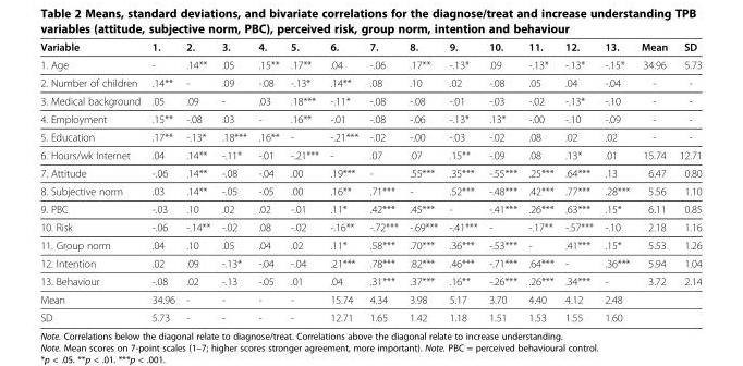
<table><thead><tr><td>Variable</td><td>1.</td><td>2.</td><td>3.</td><td>4.</td><td>5.</td><td>6.</td><td>7.</td><td>8.</td><td>9.</td><td>10.</td><td>11.</td><td>12.</td><td>13.</td><td>Mean</td><td>SD</td></tr></thead><tbody><tr><td>1. Age</td><td>-</td><td>.14**</td><td>.05</td><td>.15**</td><td>.17**</td><td>.04</td><td>-.06</td><td>.17**</td><td>-.13*</td><td>.09</td><td>-.13*</td><td>-.13*</td><td>-.15*</td><td>34.96</td><td>5.73</td></tr><tr><td>2. Number of children</td><td>.14**</td><td>-</td><td>.09</td><td>-.08</td><td>-.13*</td><td>.14**</td><td>.08</td><td>.10</td><td>.02</td><td>-.08</td><td>.05</td><td>.04</td><td>-.04</td><td>-</td><td>-</td></tr><tr><td>3. Medical background</td><td>.05</td><td>.09</td><td>-</td><td>.03</td><td>.18***</td><td>-.11*</td><td>-.08</td><td>-.08</td><td>-.01</td><td>-.03</td><td>-.02</td><td>-.13*</td><td>-.10</td><td>-</td><td>-</td></tr><tr><td>4. Employment</td><td>.15**</td><td>-.08</td><td>.03</td><td>-</td><td>.16**</td><td>-.01</td><td>-.08</td><td>-.06</td><td>-.13*</td><td>.13*</td><td>-.00</td><td>-.10</td><td>-.09</td><td>-</td><td>-</td></tr><tr><td>5. Education</td><td>.17**</td><td>-.13*</td><td>.18***</td><td>.16**</td><td>-</td><td>-.21***</td><td>-.02</td><td>-.00</td><td>-.03</td><td>-.02</td><td>.08</td><td>.02</td><td>.02</td><td>-</td><td>-</td></tr><tr><td>6. Hours/wk Internet</td><td>.04</td><td>.14**</td><td>-.11*</td><td>-.01</td><td>-.21***</td><td>-</td><td>.07</td><td>.07</td><td>.15**</td><td>-.09</td><td>.08</td><td>.13*</td><td>.01</td><td>15.74</td><td>12.71</td></tr><tr><td>7. Attitude</td><td>-.06</td><td>.14**</td><td>-.08</td><td>-.04</td><td>.00</td><td>.19***</td><td>-</td><td>.55***</td><td>.35***</td><td>-.55***</td><td>.25***</td><td>.64***</td><td>.13</td><td>6.47</td><td>0.80</td></tr><tr><td>8. Subjective norm</td><td>.03</td><td>.14**</td><td>-.05</td><td>-.05</td><td>.00</td><td>.16**</td><td>.71***</td><td>-</td><td>.52***</td><td>-.48***</td><td>.42***</td><td>.77***</td><td>.28***</td><td>5.56</td><td>1.10</td></tr><tr><td>9. PBC</td><td>-.03</td><td>.10</td><td>.02</td><td>.02</td><td>-.01</td><td>.11*</td><td>.42***</td><td>.45***</td><td>-</td><td>-.41***</td><td>.26***</td><td>.63***</td><td>.15*</td><td>6.11</td><td>0.85</td></tr><tr><td>10. Risk</td><td>-.06</td><td>-.14**</td><td>-.02</td><td>.08</td><td>-.02</td><td>-.16**</td><td>-.72***</td><td>-.69***</td><td>-.41***</td><td>-</td><td>-.17**</td><td>-.57***</td><td>-.10</td><td>2.18</td><td>1.16</td></tr><tr><td>11. Group norm</td><td>.04</td><td>.10</td><td>.05</td><td>.04</td><td>.02</td><td>.11*</td><td>.58***</td><td>.70***</td><td>.36***</td><td>-.53***</td><td>-</td><td>.41***</td><td>.15*</td><td>5.53</td><td>1.26</td></tr><tr><td>12. Intention</td><td>.02</td><td>.09</td><td>-.13*</td><td>-.04</td><td>-.04</td><td>.21***</td><td>.78***</td><td>.82***</td><td>.46***</td><td>-.71***</td><td>.64***</td><td>-</td><td>.36***</td><td>5.94</td><td>1.04</td></tr><tr><td>13. Behaviour</td><td>-.08</td><td>.02</td><td>-.13</td><td>-.05</td><td>.01</td><td>.04</td><td>.31***</td><td>.37***</td><td>.16**</td><td>-.26***</td><td>.26***</td><td>.34***</td><td>-</td><td>3.72</td><td>2.14</td></tr><tr><td>Mean</td><td>34.96</td><td>-</td><td>-</td><td>-</td><td>-</td><td>15.74</td><td>4.34</td><td>3.98</td><td>5.17</td><td>3.70</td><td>4.40</td><td>4.12</td><td>2.48</td><td></td><td></td></tr><tr><td>SD</td><td>5.73</td><td>-</td><td>-</td><td>-</td><td>-</td><td>12.71</td><td>1.65</td><td>1.42</td><td>1.18</td><td>1.51</td><td>1.53</td><td>1.55</td><td>1.60</td><td></td><td></td></tr></tbody></table>